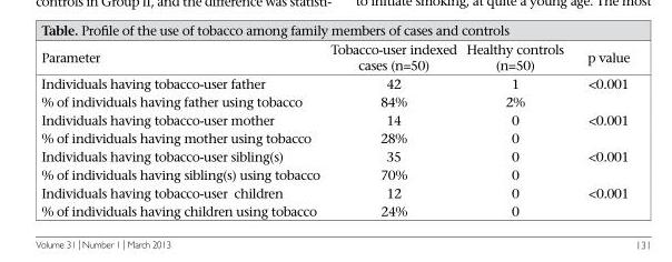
<table><thead><tr><td>Parameter</td><td>Tobacco-user indexed cases (n=50)</td><td>Healthy controls (n=50)</td><td>p value</td></tr></thead><tbody><tr><td>Individuals having tobacco-user father</td><td>42</td><td>1</td><td>&lt;0.001</td></tr><tr><td>% of individuals having father using tobacco</td><td>84%</td><td>2%</td><td></td></tr><tr><td>Individuals having tobacco-user mother</td><td>14</td><td>0</td><td>&lt;0.001</td></tr><tr><td>% of individuals having mother using tobacco</td><td>28%</td><td>0</td><td></td></tr><tr><td>Individuals having tobacco-user sibling(s)</td><td>35</td><td>0</td><td>&lt;0.001</td></tr><tr><td>% of individuals having sibling(s) using tobacco</td><td>70%</td><td>0</td><td></td></tr><tr><td>Individuals having tobacco-user children</td><td>12</td><td>0</td><td>&lt;0.001</td></tr><tr><td>% of individuals having children using tobacco</td><td>24%</td><td>0</td><td></td></tr></tbody></table>